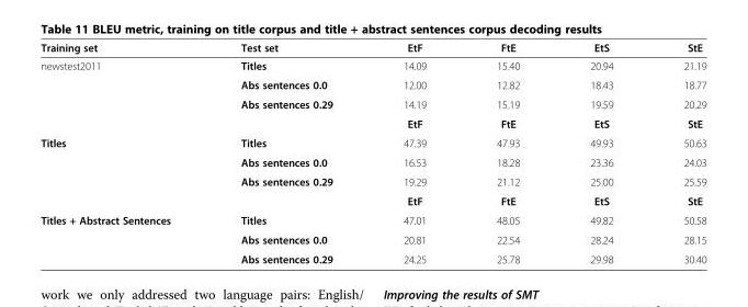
<table><thead><tr><td>Training set</td><td>Test set</td><td>EtF</td><td>FtE</td><td>EtS</td><td>StE</td></tr></thead><tbody><tr><td rowspan="4">newstest2011</td><td>Titles</td><td>14.09</td><td>15.40</td><td>20.94</td><td>21.19</td></tr><tr><td>Abs sentences 0.0</td><td>12.00</td><td>12.82</td><td>18.43</td><td>18.77</td></tr><tr><td>Abs sentences 0.29</td><td>14.19</td><td>15.19</td><td>19.59</td><td>20.29</td></tr><tr><td></td><td>EtF</td><td>FtE</td><td>EtS</td><td>StE</td></tr><tr><td rowspan="4">Titles</td><td>Titles</td><td>47.39</td><td>47.93</td><td>49.93</td><td>50.63</td></tr><tr><td>Abs sentences 0.0</td><td>16.53</td><td>18.28</td><td>23.36</td><td>24.03</td></tr><tr><td>Abs sentences 0.29</td><td>19.29</td><td>21.12</td><td>25.00</td><td>25.59</td></tr><tr><td></td><td>EtF</td><td>FtE</td><td>EtS</td><td>StE</td></tr><tr><td rowspan="3">Titles + Abstract Sentences</td><td>Titles</td><td>47.01</td><td>48.05</td><td>49.82</td><td>50.58</td></tr><tr><td>Abs sentences 0.0</td><td>20.81</td><td>22.54</td><td>28.24</td><td>28.15</td></tr><tr><td>Abs sentences 0.29</td><td>24.25</td><td>25.78</td><td>29.98</td><td>30.40</td></tr></tbody></table>